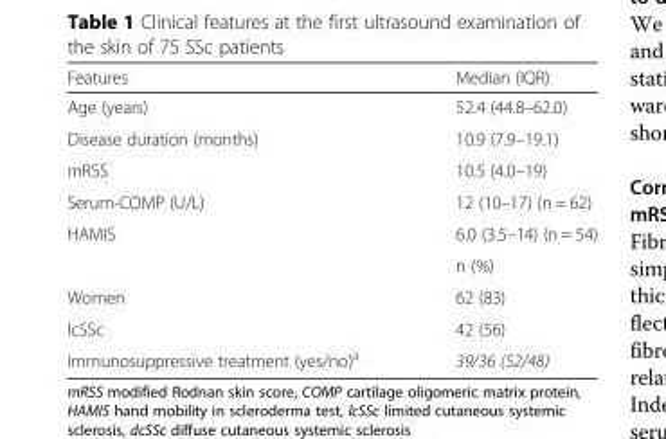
<table><thead><tr><td>Features</td><td>Median (IQR)</td></tr></thead><tbody><tr><td>Age (years)</td><td>52.4 (44.8–62.0)</td></tr><tr><td>Disease duration (months)</td><td>10.9 (7.9–19.1)</td></tr><tr><td>mRSS</td><td>10.5 (4.0–19)</td></tr><tr><td>Serum-COMP (U/L)</td><td>12 (10–17) (n = 62)</td></tr><tr><td rowspan="2">HAMIS</td><td>6.0 (3.5–14) (n = 54)</td></tr><tr><td>n (%)</td></tr><tr><td>Women</td><td>62 (83)</td></tr><tr><td>lcSSc</td><td>42 (56)</td></tr><tr><td>Immunosuppressive treatment (yes/no)<sup>a</sup></td><td>39/36 (52/48)</td></tr></tbody></table>